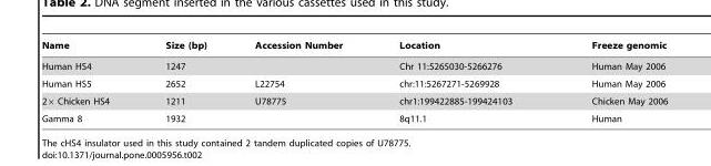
<table><thead><tr><td>Name</td><td>Size (bp)</td><td>Accession Number</td><td>Location</td><td>Freeze genomic</td></tr></thead><tbody><tr><td>Human HS4</td><td>1247</td><td></td><td>Chr 11:5265030-5266276</td><td>Human May 2006</td></tr><tr><td>Human HS5</td><td>2652</td><td>L22754</td><td>chr:11:5267271-5269928</td><td>Human May 2006</td></tr><tr><td>2× Chicken HS4</td><td>1211</td><td>U78775</td><td>chr1:199422885-199424103</td><td>Chicken May 2006</td></tr><tr><td>Gamma 8</td><td>1932</td><td></td><td>8q11.1</td><td>Human</td></tr></tbody></table>